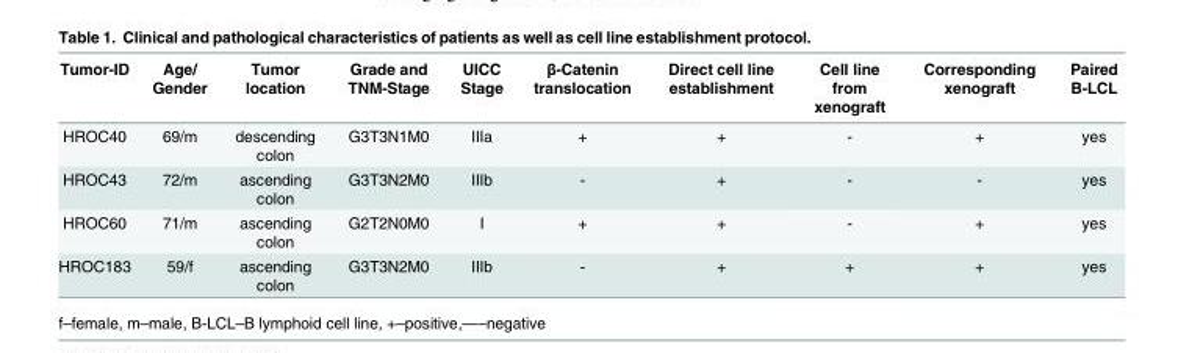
<table><thead><tr><td>Tumor-ID</td><td>Age/ Gender</td><td>Tumor location</td><td>Grade and TNM-Stage</td><td>UICC Stage</td><td>β-Catenin translocation</td><td>Direct cell line establishment</td><td>Cell line from xenograft</td><td>Corresponding xenograft</td><td>Paired B-LCL</td></tr></thead><tbody><tr><td>HROC40</td><td>69/m</td><td>descending colon</td><td>G3T3N1M0</td><td>IIIa</td><td>+</td><td>+</td><td>-</td><td>+</td><td>yes</td></tr><tr><td>HROC43</td><td>72/m</td><td>ascending colon</td><td>G3T3N2M0</td><td>IIIb</td><td>-</td><td>+</td><td>-</td><td>-</td><td>yes</td></tr><tr><td>HROC60</td><td>71/m</td><td>ascending colon</td><td>G2T2N0M0</td><td>I</td><td>+</td><td>+</td><td>-</td><td>+</td><td>yes</td></tr><tr><td>HROC183</td><td>59/f</td><td>ascending colon</td><td>G3T3N2M0</td><td>IIIb</td><td>-</td><td>+</td><td>+</td><td>+</td><td>yes</td></tr></tbody></table>